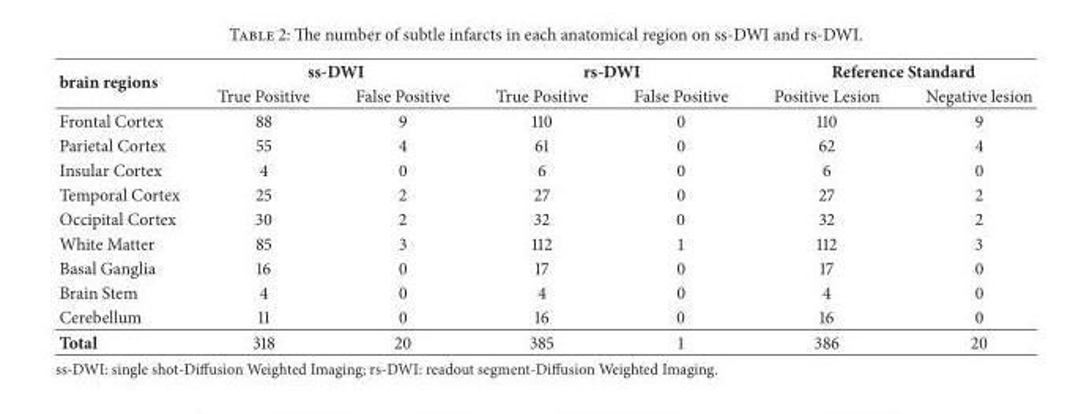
<table><thead><tr><td rowspan="2">brain regions</td><td colspan="2">ss-DWI</td><td colspan="2">rs-DWI</td><td colspan="2">Reference Standard</td></tr><tr><td>True Positive</td><td>False Positive</td><td>True Positive</td><td>False Positive</td><td>Positive Lesion</td><td>Negative lesion</td></tr></thead><tbody><tr><td>Frontal Cortex</td><td>88</td><td>9</td><td>110</td><td>0</td><td>110</td><td>9</td></tr><tr><td>Parietal Cortex</td><td>55</td><td>4</td><td>61</td><td>0</td><td>62</td><td>4</td></tr><tr><td>Insular Cortex</td><td>4</td><td>0</td><td>6</td><td>0</td><td>6</td><td>0</td></tr><tr><td>Temporal Cortex</td><td>25</td><td>2</td><td>27</td><td>0</td><td>27</td><td>2</td></tr><tr><td>Occipital Cortex</td><td>30</td><td>2</td><td>32</td><td>0</td><td>32</td><td>2</td></tr><tr><td>White Matter</td><td>85</td><td>3</td><td>112</td><td>1</td><td>112</td><td>3</td></tr><tr><td>Basal Ganglia</td><td>16</td><td>0</td><td>17</td><td>0</td><td>17</td><td>0</td></tr><tr><td>Brain Stem</td><td>4</td><td>0</td><td>4</td><td>0</td><td>4</td><td>0</td></tr><tr><td>Cerebellum</td><td>11</td><td>0</td><td>16</td><td>0</td><td>16</td><td>0</td></tr><tr><td>Total</td><td>318</td><td>20</td><td>385</td><td>1</td><td>386</td><td>20</td></tr></tbody></table>